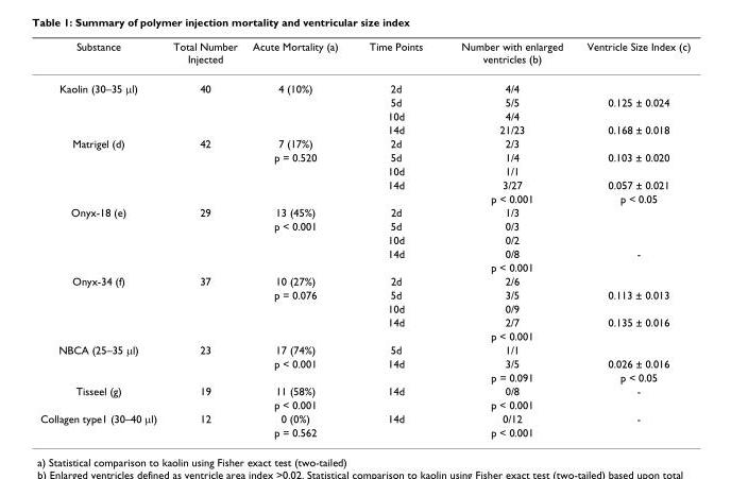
<table><thead><tr><td>Substance</td><td>Total Number Injected</td><td>Acute Mortality (a)</td><td>Time Points</td><td>Number with enlarged ventricles (b)</td><td>Ventricle Size Index (c)</td></tr></thead><tbody><tr><td rowspan="4">Kaolin (30–35 µl)</td><td>40</td><td>4 (10%)</td><td>2d</td><td>4/4</td><td></td></tr><tr><td></td><td></td><td>5d</td><td>5/5</td><td>0.125 ± 0.024</td></tr><tr><td></td><td></td><td>10d</td><td>4/4</td><td></td></tr><tr><td></td><td></td><td>14d</td><td>21/23</td><td>0.168 ± 0.018</td></tr><tr><td rowspan="5">Matrigel (d)</td><td>42</td><td>7 (17%)</td><td>2d</td><td>2/3</td><td></td></tr><tr><td></td><td>p = 0.520</td><td>5d</td><td>1/4</td><td>0.103 ± 0.020</td></tr><tr><td></td><td></td><td>10d</td><td>1/1</td><td></td></tr><tr><td></td><td></td><td>14d</td><td>3/27</td><td>0.057 ± 0.021</td></tr><tr><td></td><td></td><td></td><td>p &lt; 0.001</td><td>p &lt; 0.05</td></tr><tr><td rowspan="5">Onyx-18 (e)</td><td>29</td><td>13 (45%)</td><td>2d</td><td>1/3</td><td></td></tr><tr><td></td><td>p &lt; 0.001</td><td>5d</td><td>0/3</td><td></td></tr><tr><td></td><td></td><td>10d</td><td>0/2</td><td></td></tr><tr><td></td><td></td><td>14d</td><td>0/8</td><td>-</td></tr><tr><td></td><td></td><td></td><td>p &lt; 0.001</td><td></td></tr><tr><td rowspan="5">Onyx-34 (f)</td><td>37</td><td>10 (27%)</td><td>2d</td><td>2/6</td><td></td></tr><tr><td></td><td>p = 0.076</td><td>5d</td><td>3/5</td><td>0.113 ± 0.013</td></tr><tr><td></td><td></td><td>10d</td><td>0/9</td><td></td></tr><tr><td></td><td></td><td>14d</td><td>2/7</td><td>0.135 ± 0.016</td></tr><tr><td></td><td></td><td></td><td>p &lt; 0.001</td><td></td></tr><tr><td rowspan="3">NBCA (25–35 µl)</td><td>23</td><td>17 (74%)</td><td>5d</td><td>1/1</td><td></td></tr><tr><td></td><td>p &lt; 0.001</td><td>14d</td><td>3/5</td><td>0.026 ± 0.016</td></tr><tr><td></td><td></td><td></td><td>p = 0.091</td><td>p &lt; 0.05</td></tr><tr><td rowspan="2">Tisseel (g)</td><td>19</td><td>11 (58%)</td><td>14d</td><td>0/8</td><td>-</td></tr><tr><td></td><td>p &lt; 0.001</td><td></td><td>p &lt; 0.001</td><td></td></tr><tr><td rowspan="2">Collagen type1 (30–40 µl)</td><td>12</td><td>0 (0%)</td><td>14d</td><td>0/12</td><td>-</td></tr><tr><td></td><td>p = 0.562</td><td></td><td>p &lt; 0.001</td><td></td></tr></tbody></table>